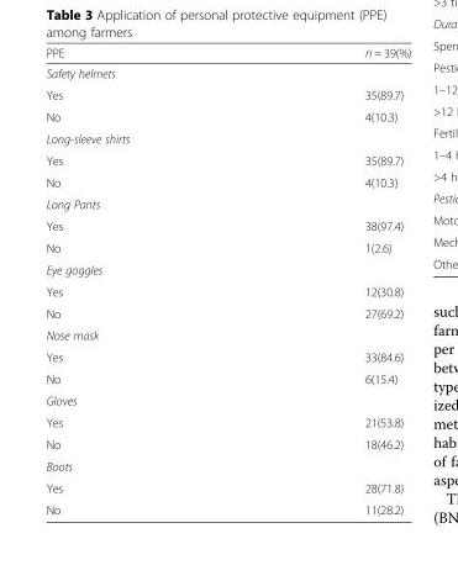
<table><thead><tr><td>PPE</td><td>n = 39(%)</td></tr></thead><tbody><tr><td colspan="2">Safety helmets</td></tr><tr><td>Yes</td><td>35(89.7)</td></tr><tr><td>No</td><td>4(10.3)</td></tr><tr><td colspan="2">Long-sleeve shirts</td></tr><tr><td>Yes</td><td>35(89.7)</td></tr><tr><td>No</td><td>4(10.3)</td></tr><tr><td colspan="2">Long Pants</td></tr><tr><td>Yes</td><td>38(97.4)</td></tr><tr><td>No</td><td>1(2.6)</td></tr><tr><td colspan="2">Eye goggles</td></tr><tr><td>Yes</td><td>12(30.8)</td></tr><tr><td>No</td><td>27(69.2)</td></tr><tr><td colspan="2">Nose mask</td></tr><tr><td>Yes</td><td>33(84.6)</td></tr><tr><td>No</td><td>6(15.4)</td></tr><tr><td colspan="2">Gloves</td></tr><tr><td>Yes</td><td>21(53.8)</td></tr><tr><td>No</td><td>18(46.2)</td></tr><tr><td colspan="2">Boots</td></tr><tr><td>Yes</td><td>28(71.8)</td></tr><tr><td>No</td><td>11(28.2)</td></tr></tbody></table>